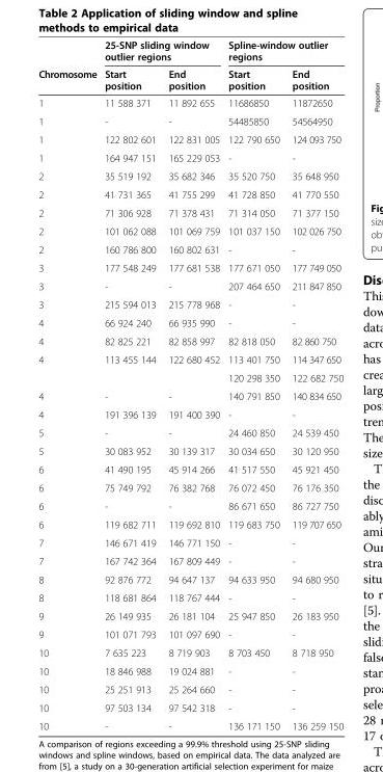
<table><thead><tr><td rowspan="2">Chromosome</td><td colspan="2">25-SNP sliding window outlier regions</td><td colspan="2">Spline-window outlier regions</td></tr><tr><td>Start position</td><td>End position</td><td>Start position</td><td>End position</td></tr></thead><tbody><tr><td>1</td><td>11 588 371</td><td>11 892 655</td><td>11686850</td><td>11872650</td></tr><tr><td>1</td><td>-</td><td>-</td><td>54485850</td><td>54564950</td></tr><tr><td>1</td><td>122 802 601</td><td>122 831 005</td><td>122 790 650</td><td>124 093 750</td></tr><tr><td>1</td><td>164 947 151</td><td>165 229 053</td><td>-</td><td>-</td></tr><tr><td>2</td><td>35 519 192</td><td>35 682 346</td><td>35 520 750</td><td>35 648 950</td></tr><tr><td>2</td><td>41 731 365</td><td>41 755 299</td><td>41 728 850</td><td>41 770 550</td></tr><tr><td>2</td><td>71 306 928</td><td>71 378 431</td><td>71 314 050</td><td>71 377 150</td></tr><tr><td>2</td><td>101 062 088</td><td>101 069 759</td><td>101 037 150</td><td>102 026 750</td></tr><tr><td>2</td><td>160 786 800</td><td>160 802 631</td><td>-</td><td>-</td></tr><tr><td>3</td><td>177 548 249</td><td>177 681 538</td><td>177 671 050</td><td>177 749 050</td></tr><tr><td>3</td><td>-</td><td>-</td><td>207 464 650</td><td>211 847 850</td></tr><tr><td>3</td><td>215 594 013</td><td>215 778 968</td><td>-</td><td>-</td></tr><tr><td>4</td><td>66 924 240</td><td>66 935 990</td><td>-</td><td>-</td></tr><tr><td>4</td><td>82 825 221</td><td>82 858 997</td><td>82 818 050</td><td>82 860 750</td></tr><tr><td rowspan="2">4</td><td rowspan="2">113 455 144</td><td rowspan="2">122 680 452</td><td>113 401 750</td><td>114 347 650</td></tr><tr><td>120 298 350</td><td>122 682 750</td></tr><tr><td>4</td><td>-</td><td>-</td><td>140 791 850</td><td>140 834 650</td></tr><tr><td>4</td><td>191 396 139</td><td>191 400 390</td><td>-</td><td>-</td></tr><tr><td>5</td><td>-</td><td>-</td><td>24 460 850</td><td>24 539 450</td></tr><tr><td>5</td><td>30 083 952</td><td>30 139 317</td><td>30 034 650</td><td>30 120 950</td></tr><tr><td>6</td><td>41 490 195</td><td>45 914 266</td><td>41 517 550</td><td>45 921 450</td></tr><tr><td>6</td><td>75 749 792</td><td>76 382 768</td><td>76 072 450</td><td>76 176 350</td></tr><tr><td>6</td><td>-</td><td>-</td><td>86 671 650</td><td>86 727 750</td></tr><tr><td>6</td><td>119 682 711</td><td>119 692 810</td><td>119 683 750</td><td>119 707 650</td></tr><tr><td>7</td><td>146 671 419</td><td>146 771 150</td><td>-</td><td>-</td></tr><tr><td>7</td><td>167 742 364</td><td>167 809 449</td><td>-</td><td>-</td></tr><tr><td>8</td><td>92 876 772</td><td>94 647 137</td><td>94 633 950</td><td>94 680 950</td></tr><tr><td>8</td><td>118 681 864</td><td>118 767 444</td><td>-</td><td>-</td></tr><tr><td>9</td><td>26 149 935</td><td>26 181 104</td><td>25 947 850</td><td>26 183 950</td></tr><tr><td>9</td><td>101 071 793</td><td>101 097 690</td><td>-</td><td>-</td></tr><tr><td>10</td><td>7 635 223</td><td>8 719 903</td><td>8 703 450</td><td>8 718 950</td></tr><tr><td>10</td><td>18 846 988</td><td>19 024 881</td><td>-</td><td>-</td></tr><tr><td>10</td><td>25 251 913</td><td>25 264 660</td><td>-</td><td>-</td></tr><tr><td>10</td><td>97 503 134</td><td>97 542 318</td><td>-</td><td>-</td></tr><tr><td>10</td><td>-</td><td>-</td><td>136 171 150</td><td>136 259 150</td></tr></tbody></table>